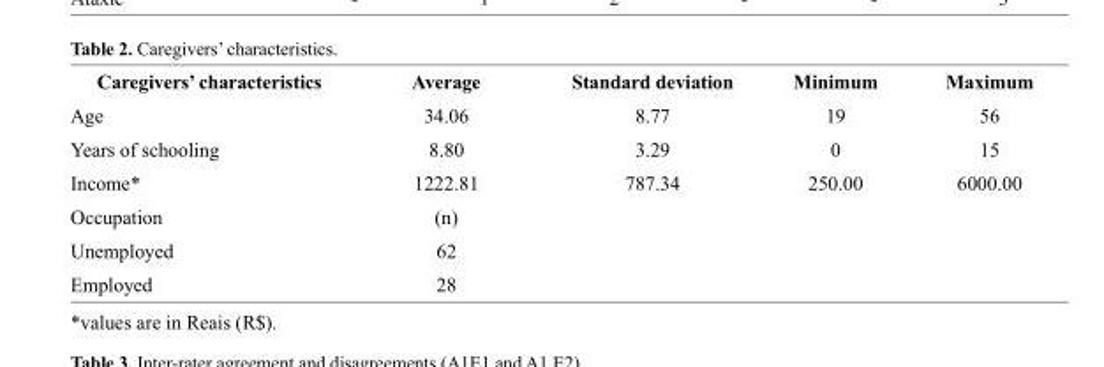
<table><thead><tr><td>Caregivers’ characteristics</td><td>Average</td><td>Standard deviation</td><td>Minimum</td><td>Maximum</td></tr></thead><tbody><tr><td>Age</td><td>34.06</td><td>8.77</td><td>19</td><td>56</td></tr><tr><td>Years of schooling</td><td>8.80</td><td>3.29</td><td>0</td><td>15</td></tr><tr><td>Income*</td><td>1222.81</td><td>787.34</td><td>250.00</td><td>6000.00</td></tr><tr><td>Occupation</td><td>(n)</td><td></td><td></td><td></td></tr><tr><td>Unemployed</td><td>62</td><td></td><td></td><td></td></tr><tr><td>Employed</td><td>28</td><td></td><td></td><td></td></tr></tbody></table>